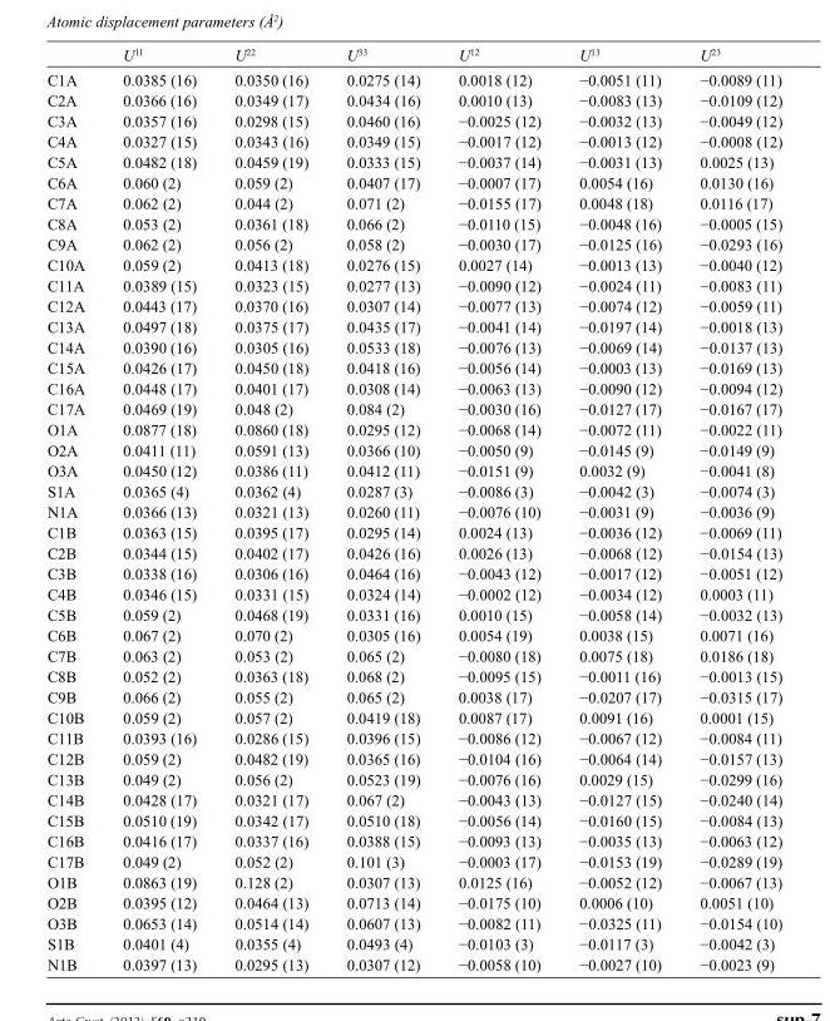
<table><thead><tr><td></td><td>U<sup>11</sup></td><td>U<sup>22</sup></td><td>U<sup>33</sup></td><td>U<sup>12</sup></td><td>U<sup>13</sup></td><td>U<sup>23</sup></td></tr></thead><tbody><tr><td>C1A</td><td>0.0385 (16)</td><td>0.0350 (16)</td><td>0.0275 (14)</td><td>0.0018 (12)</td><td>−0.0051 (11)</td><td>−0.0089 (11)</td></tr><tr><td>C2A</td><td>0.0366 (16)</td><td>0.0349 (17)</td><td>0.0434 (16)</td><td>0.0010 (13)</td><td>−0.0083 (13)</td><td>−0.0109 (12)</td></tr><tr><td>C3A</td><td>0.0357 (16)</td><td>0.0298 (15)</td><td>0.0460 (16)</td><td>−0.0025 (12)</td><td>−0.0032 (13)</td><td>−0.0049 (12)</td></tr><tr><td>C4A</td><td>0.0327 (15)</td><td>0.0343 (16)</td><td>0.0349 (15)</td><td>−0.0017 (12)</td><td>−0.0013 (12)</td><td>−0.0008 (12)</td></tr><tr><td>C5A</td><td>0.0482 (18)</td><td>0.0459 (19)</td><td>0.0333 (15)</td><td>−0.0037 (14)</td><td>−0.0031 (13)</td><td>0.0025 (13)</td></tr><tr><td>C6A</td><td>0.060 (2)</td><td>0.059 (2)</td><td>0.0407 (17)</td><td>−0.0007 (17)</td><td>0.0054 (16)</td><td>0.0130 (16)</td></tr><tr><td>C7A</td><td>0.062 (2)</td><td>0.044 (2)</td><td>0.071 (2)</td><td>−0.0155 (17)</td><td>0.0048 (18)</td><td>0.0116 (17)</td></tr><tr><td>C8A</td><td>0.053 (2)</td><td>0.0361 (18)</td><td>0.066 (2)</td><td>−0.0110 (15)</td><td>−0.0048 (16)</td><td>−0.0005 (15)</td></tr><tr><td>C9A</td><td>0.062 (2)</td><td>0.056 (2)</td><td>0.058 (2)</td><td>−0.0030 (17)</td><td>−0.0125 (16)</td><td>−0.0293 (16)</td></tr><tr><td>C10A</td><td>0.059 (2)</td><td>0.0413 (18)</td><td>0.0276 (15)</td><td>0.0027 (14)</td><td>−0.0013 (13)</td><td>−0.0040 (12)</td></tr><tr><td>C11A</td><td>0.0389 (15)</td><td>0.0323 (15)</td><td>0.0277 (13)</td><td>−0.0090 (12)</td><td>−0.0024 (11)</td><td>−0.0083 (11)</td></tr><tr><td>C12A</td><td>0.0443 (17)</td><td>0.0370 (16)</td><td>0.0307 (14)</td><td>−0.0077 (13)</td><td>−0.0074 (12)</td><td>−0.0059 (11)</td></tr><tr><td>C13A</td><td>0.0497 (18)</td><td>0.0375 (17)</td><td>0.0435 (17)</td><td>−0.0041 (14)</td><td>−0.0197 (14)</td><td>−0.0018 (13)</td></tr><tr><td>C14A</td><td>0.0390 (16)</td><td>0.0305 (16)</td><td>0.0533 (18)</td><td>−0.0076 (13)</td><td>−0.0069 (14)</td><td>−0.0137 (13)</td></tr><tr><td>C15A</td><td>0.0426 (17)</td><td>0.0450 (18)</td><td>0.0418 (16)</td><td>−0.0056 (14)</td><td>−0.0003 (13)</td><td>−0.0169 (13)</td></tr><tr><td>C16A</td><td>0.0448 (17)</td><td>0.0401 (17)</td><td>0.0308 (14)</td><td>−0.0063 (13)</td><td>−0.0090 (12)</td><td>−0.0094 (12)</td></tr><tr><td>C17A</td><td>0.0469 (19)</td><td>0.048 (2)</td><td>0.084 (2)</td><td>−0.0030 (16)</td><td>−0.0127 (17)</td><td>−0.0167 (17)</td></tr><tr><td>O1A</td><td>0.0877 (18)</td><td>0.0860 (18)</td><td>0.0295 (12)</td><td>−0.0068 (14)</td><td>−0.0072 (11)</td><td>−0.0022 (11)</td></tr><tr><td>O2A</td><td>0.0411 (11)</td><td>0.0591 (13)</td><td>0.0366 (10)</td><td>−0.0050 (9)</td><td>−0.0145 (9)</td><td>−0.0149 (9)</td></tr><tr><td>O3A</td><td>0.0450 (12)</td><td>0.0386 (11)</td><td>0.0412 (11)</td><td>−0.0151 (9)</td><td>0.0032 (9)</td><td>−0.0041 (8)</td></tr><tr><td>S1A</td><td>0.0365 (4)</td><td>0.0362 (4)</td><td>0.0287 (3)</td><td>−0.0086 (3)</td><td>−0.0042 (3)</td><td>−0.0074 (3)</td></tr><tr><td>N1A</td><td>0.0366 (13)</td><td>0.0321 (13)</td><td>0.0260 (11)</td><td>−0.0076 (10)</td><td>−0.0031 (9)</td><td>−0.0036 (9)</td></tr><tr><td>C1B</td><td>0.0363 (15)</td><td>0.0395 (17)</td><td>0.0295 (14)</td><td>0.0024 (13)</td><td>−0.0036 (12)</td><td>−0.0069 (11)</td></tr><tr><td>C2B</td><td>0.0344 (15)</td><td>0.0402 (17)</td><td>0.0426 (16)</td><td>0.0026 (13)</td><td>−0.0068 (12)</td><td>−0.0154 (13)</td></tr><tr><td>C3B</td><td>0.0338 (16)</td><td>0.0306 (16)</td><td>0.0464 (16)</td><td>−0.0043 (12)</td><td>−0.0017 (12)</td><td>−0.0051 (12)</td></tr><tr><td>C4B</td><td>0.0346 (15)</td><td>0.0331 (15)</td><td>0.0324 (14)</td><td>−0.0002 (12)</td><td>−0.0034 (12)</td><td>0.0003 (11)</td></tr><tr><td>C5B</td><td>0.059 (2)</td><td>0.0468 (19)</td><td>0.0331 (16)</td><td>0.0010 (15)</td><td>−0.0058 (14)</td><td>−0.0032 (13)</td></tr><tr><td>C6B</td><td>0.067 (2)</td><td>0.070 (2)</td><td>0.0305 (16)</td><td>0.0054 (19)</td><td>0.0038 (15)</td><td>0.0071 (16)</td></tr><tr><td>C7B</td><td>0.063 (2)</td><td>0.053 (2)</td><td>0.065 (2)</td><td>−0.0080 (18)</td><td>0.0075 (18)</td><td>0.0186 (18)</td></tr><tr><td>C8B</td><td>0.052 (2)</td><td>0.0363 (18)</td><td>0.068 (2)</td><td>−0.0095 (15)</td><td>−0.0011 (16)</td><td>−0.0013 (15)</td></tr><tr><td>C9B</td><td>0.066 (2)</td><td>0.055 (2)</td><td>0.065 (2)</td><td>0.0038 (17)</td><td>−0.0207 (17)</td><td>−0.0315 (17)</td></tr><tr><td>C10B</td><td>0.059 (2)</td><td>0.057 (2)</td><td>0.0419 (18)</td><td>0.0087 (17)</td><td>0.0091 (16)</td><td>0.0001 (15)</td></tr><tr><td>C11B</td><td>0.0393 (16)</td><td>0.0286 (15)</td><td>0.0396 (15)</td><td>−0.0086 (12)</td><td>−0.0067 (12)</td><td>−0.0084 (11)</td></tr><tr><td>C12B</td><td>0.059 (2)</td><td>0.0482 (19)</td><td>0.0365 (16)</td><td>−0.0104 (16)</td><td>−0.0064 (14)</td><td>−0.0157 (13)</td></tr><tr><td>C13B</td><td>0.049 (2)</td><td>0.056 (2)</td><td>0.0523 (19)</td><td>−0.0076 (16)</td><td>0.0029 (15)</td><td>−0.0299 (16)</td></tr><tr><td>C14B</td><td>0.0428 (17)</td><td>0.0321 (17)</td><td>0.067 (2)</td><td>−0.0043 (13)</td><td>−0.0127 (15)</td><td>−0.0240 (14)</td></tr><tr><td>C15B</td><td>0.0510 (19)</td><td>0.0342 (17)</td><td>0.0510 (18)</td><td>−0.0056 (14)</td><td>−0.0160 (15)</td><td>−0.0084 (13)</td></tr><tr><td>C16B</td><td>0.0416 (17)</td><td>0.0337 (16)</td><td>0.0388 (15)</td><td>−0.0093 (13)</td><td>−0.0035 (13)</td><td>−0.0063 (12)</td></tr><tr><td>C17B</td><td>0.049 (2)</td><td>0.052 (2)</td><td>0.101 (3)</td><td>−0.0003 (17)</td><td>−0.0153 (19)</td><td>−0.0289 (19)</td></tr><tr><td>O1B</td><td>0.0863 (19)</td><td>0.128 (2)</td><td>0.0307 (13)</td><td>0.0125 (16)</td><td>−0.0052 (12)</td><td>−0.0067 (13)</td></tr><tr><td>O2B</td><td>0.0395 (12)</td><td>0.0464 (13)</td><td>0.0713 (14)</td><td>−0.0175 (10)</td><td>0.0006 (10)</td><td>0.0051 (10)</td></tr><tr><td>O3B</td><td>0.0653 (14)</td><td>0.0514 (14)</td><td>0.0607 (13)</td><td>−0.0082 (11)</td><td>−0.0325 (11)</td><td>−0.0154 (10)</td></tr><tr><td>S1B</td><td>0.0401 (4)</td><td>0.0355 (4)</td><td>0.0493 (4)</td><td>−0.0103 (3)</td><td>−0.0117 (3)</td><td>−0.0042 (3)</td></tr><tr><td>N1B</td><td>0.0397 (13)</td><td>0.0295 (13)</td><td>0.0307 (12)</td><td>−0.0058 (10)</td><td>−0.0027 (10)</td><td>−0.0023 (9)</td></tr></tbody></table>